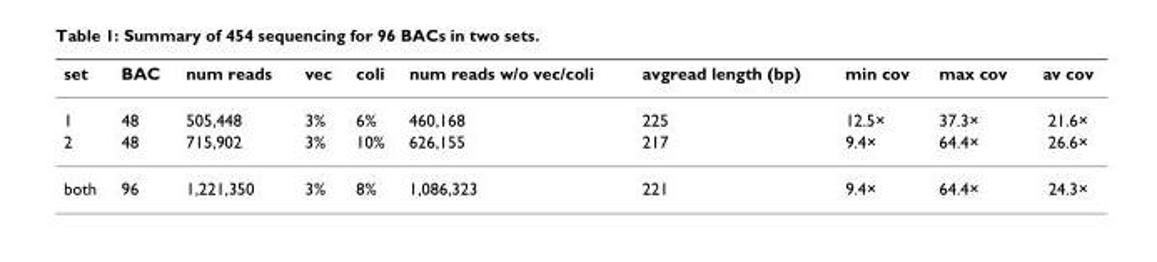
<table><thead><tr><td>set</td><td>BAC</td><td>num reads</td><td>vec</td><td>coli</td><td>num reads w/o vec/coli</td><td>avgread length (bp)</td><td>min cov</td><td>max cov</td><td>av cov</td></tr></thead><tbody><tr><td>1</td><td>48</td><td>505,448</td><td>3%</td><td>6%</td><td>460,168</td><td>225</td><td>12.5×</td><td>37.3×</td><td>21.6×</td></tr><tr><td>2</td><td>48</td><td>715,902</td><td>3%</td><td>10%</td><td>626,155</td><td>217</td><td>9.4×</td><td>64.4×</td><td>26.6×</td></tr><tr><td>both</td><td>96</td><td>1,221,350</td><td>3%</td><td>8%</td><td>1,086,323</td><td>221</td><td>9.4×</td><td>64.4×</td><td>24.3×</td></tr></tbody></table>